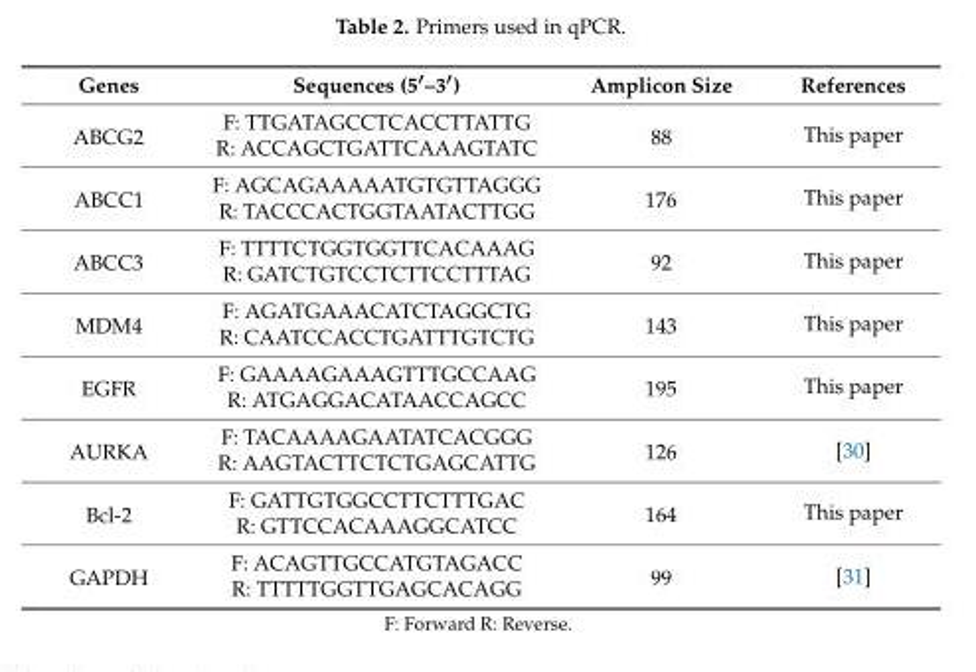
<table><thead><tr><td>Genes</td><td>Sequences (5′–3′)</td><td>Amplicon Size</td><td>References</td></tr></thead><tbody><tr><td rowspan="2">ABCG2</td><td>F: TTGATAGCCTCACCTTATTG</td><td rowspan="2">88</td><td rowspan="2">This paper</td></tr><tr><td>R: ACCAGCTGATTCAAAGTATC</td></tr><tr><td rowspan="2">ABCC1</td><td>F: AGCAGAAAAATGTGTTAGGG</td><td rowspan="2">176</td><td rowspan="2">This paper</td></tr><tr><td>R: TACCCACTGGTAATACTTGG</td></tr><tr><td rowspan="2">ABCC3</td><td>F: TTTTCTGGTGGTTCACAAAG</td><td rowspan="2">92</td><td rowspan="2">This paper</td></tr><tr><td>R: GATCTGTCCTCTTCCTTTAG</td></tr><tr><td rowspan="2">MDM4</td><td>F: AGATGAAACATCTAGGCTG</td><td rowspan="2">143</td><td rowspan="2">This paper</td></tr><tr><td>R: CAATCCACCTGATTTGTCTG</td></tr><tr><td rowspan="2">EGFR</td><td>F: GAAAAGAAAGTTTGCCAAG</td><td rowspan="2">195</td><td rowspan="2">This paper</td></tr><tr><td>R: ATGAGGACATAACCAGCC</td></tr><tr><td rowspan="2">AURKA</td><td>F: TACAAAAGAATATCACGGG</td><td rowspan="2">126</td><td rowspan="2">[30]</td></tr><tr><td>R: AAGTACTTCTCTGAGCATTG</td></tr><tr><td rowspan="2">Bcl-2</td><td>F: GATTGTGGCCTTCTTTGAC</td><td rowspan="2">164</td><td rowspan="2">This paper</td></tr><tr><td>R: GTTCCACAAAGGCATCC</td></tr><tr><td rowspan="2">GAPDH</td><td>F: ACAGTTGCCATGTAGACC</td><td rowspan="2">99</td><td rowspan="2">[31]</td></tr><tr><td>R: TTTTTGGTTGAGCACAGG</td></tr></tbody></table>